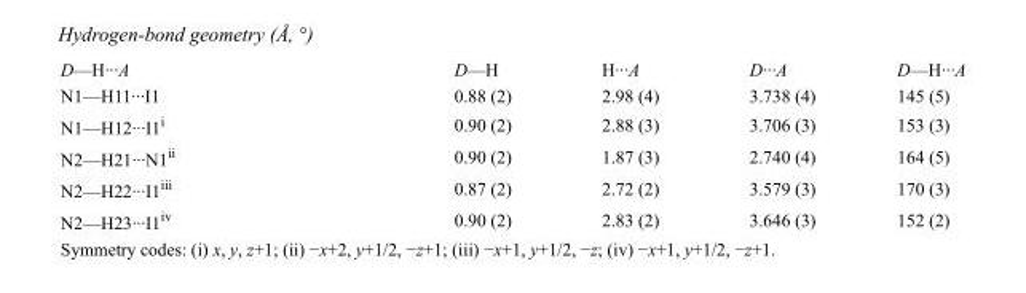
<table><tbody><tr><td>D—H···A</td><td>D—H</td><td>H···A</td><td>D···A</td><td>D—H···A</td></tr><tr><td>N1—H11···I1</td><td>0.88 (2)</td><td>2.98 (4)</td><td>3.738 (4)</td><td>145 (5)</td></tr><tr><td>N1—H12···I1<sup>i</sup></td><td>0.90 (2)</td><td>2.88 (3)</td><td>3.706 (3)</td><td>153 (3)</td></tr><tr><td>N2—H21···N1<sup>ii</sup></td><td>0.90 (2)</td><td>1.87 (3)</td><td>2.740 (4)</td><td>164 (5)</td></tr><tr><td>N2—H22···I1<sup>iii</sup></td><td>0.87 (2)</td><td>2.72 (2)</td><td>3.579 (3)</td><td>170 (3)</td></tr><tr><td>N2—H23···I1<sup>iv</sup></td><td>0.90 (2)</td><td>2.83 (2)</td><td>3.646 (3)</td><td>152 (2)</td></tr></tbody></table>